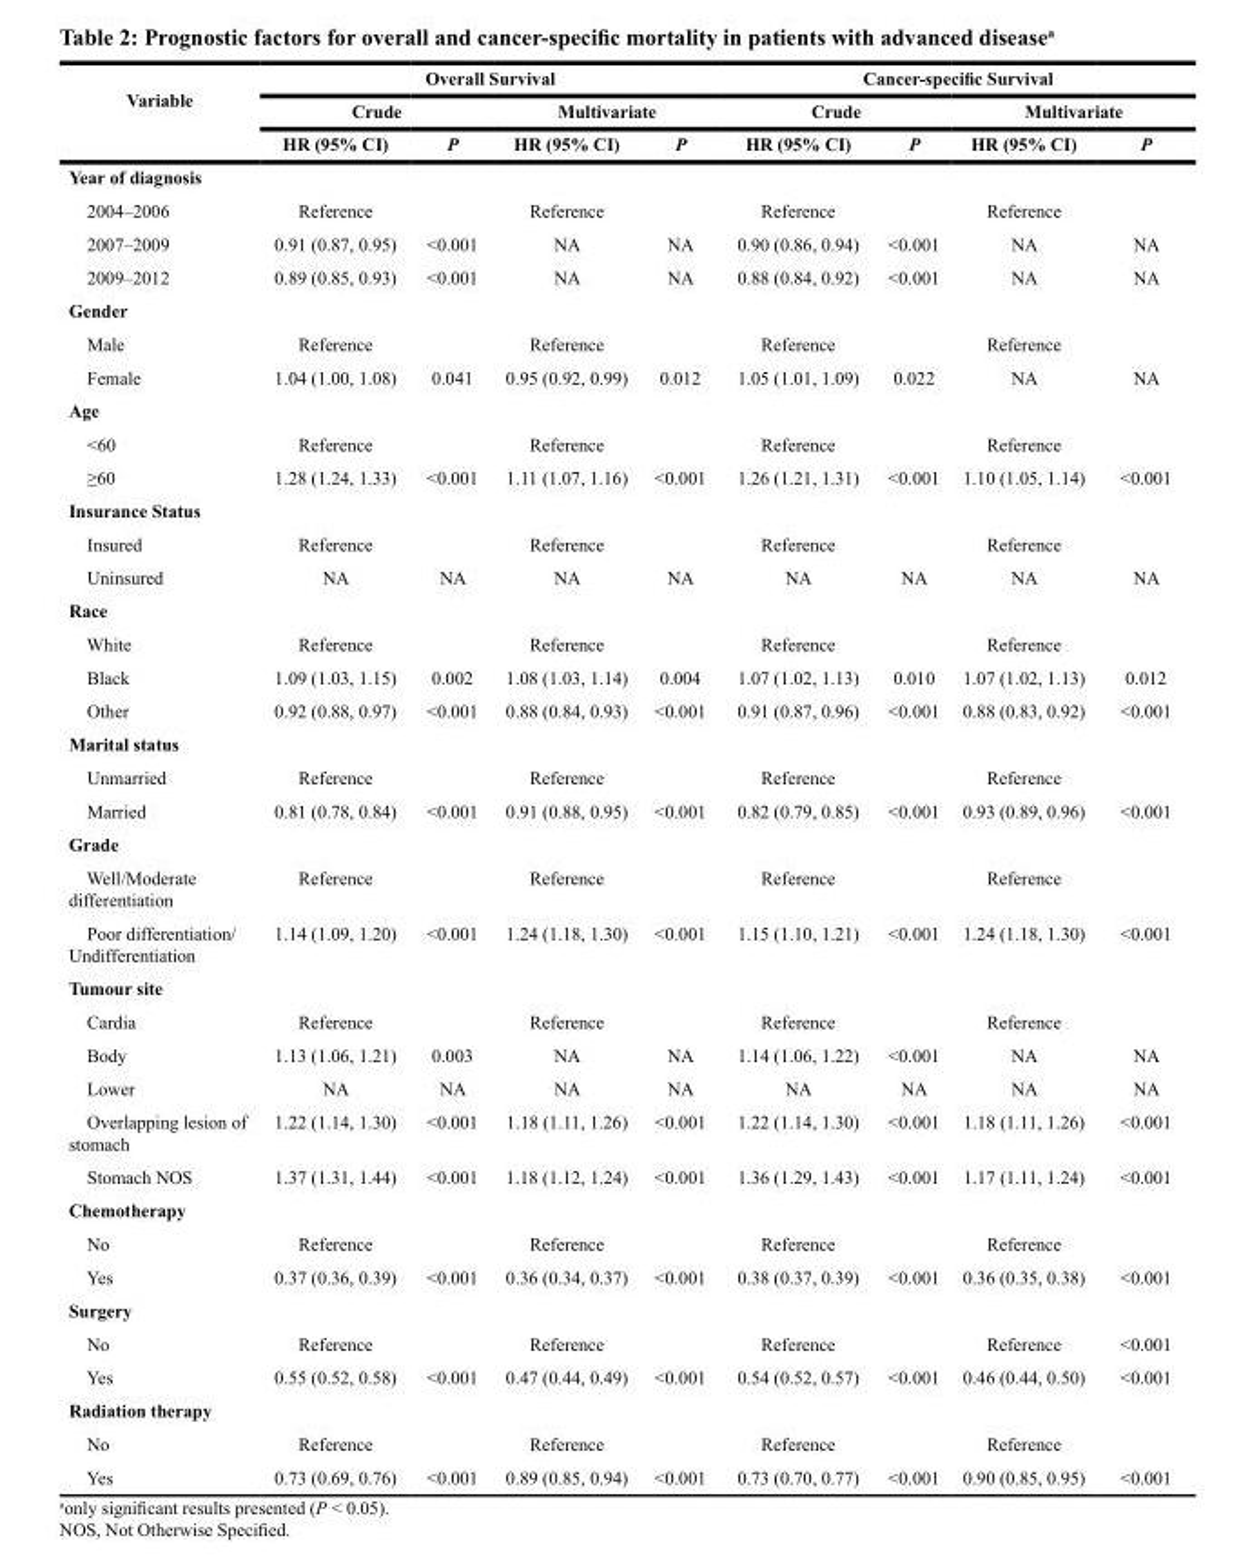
<table><thead><tr><td rowspan="3">Variable</td><td colspan="4">Overall Survival</td><td colspan="4">Cancer-specific Survival</td></tr><tr><td colspan="2">Crude</td><td colspan="2">Multivariate</td><td colspan="2">Crude</td><td colspan="2">Multivariate</td></tr><tr><td>HR (95% CI)</td><td>P</td><td>HR (95% CI)</td><td>P</td><td>HR (95% CI)</td><td>P</td><td>HR (95% CI)</td><td>P</td></tr></thead><tbody><tr><td colspan="9">Year of diagnosis</td></tr><tr><td>2004–2006</td><td>Reference</td><td></td><td>Reference</td><td></td><td>Reference</td><td></td><td>Reference</td><td></td></tr><tr><td>2007–2009</td><td>0.91 (0.87, 0.95)</td><td>&lt;0.001</td><td>NA</td><td>NA</td><td>0.90 (0.86, 0.94)</td><td>&lt;0.001</td><td>NA</td><td>NA</td></tr><tr><td>2009–2012</td><td>0.89 (0.85, 0.93)</td><td>&lt;0.001</td><td>NA</td><td>NA</td><td>0.88 (0.84, 0.92)</td><td>&lt;0.001</td><td>NA</td><td>NA</td></tr><tr><td colspan="9">Gender</td></tr><tr><td>Male</td><td>Reference</td><td></td><td>Reference</td><td></td><td>Reference</td><td></td><td>Reference</td><td></td></tr><tr><td>Female</td><td>1.04 (1.00, 1.08)</td><td>0.041</td><td>0.95 (0.92, 0.99)</td><td>0.012</td><td>1.05 (1.01, 1.09)</td><td>0.022</td><td>NA</td><td>NA</td></tr><tr><td colspan="9">Age</td></tr><tr><td>&lt;60</td><td>Reference</td><td></td><td>Reference</td><td></td><td>Reference</td><td></td><td>Reference</td><td></td></tr><tr><td>≥60</td><td>1.28 (1.24, 1.33)</td><td>&lt;0.001</td><td>1.11 (1.07, 1.16)</td><td>&lt;0.001</td><td>1.26 (1.21, 1.31)</td><td>&lt;0.001</td><td>1.10 (1.05, 1.14)</td><td>&lt;0.001</td></tr><tr><td colspan="9">Insurance Status</td></tr><tr><td>Insured</td><td>Reference</td><td></td><td>Reference</td><td></td><td>Reference</td><td></td><td>Reference</td><td></td></tr><tr><td>Uninsured</td><td>NA</td><td>NA</td><td>NA</td><td>NA</td><td>NA</td><td>NA</td><td>NA</td><td>NA</td></tr><tr><td colspan="9">Race</td></tr><tr><td>White</td><td>Reference</td><td></td><td>Reference</td><td></td><td>Reference</td><td></td><td>Reference</td><td></td></tr><tr><td>Black</td><td>1.09 (1.03, 1.15)</td><td>0.002</td><td>1.08 (1.03, 1.14)</td><td>0.004</td><td>1.07 (1.02, 1.13)</td><td>0.010</td><td>1.07 (1.02, 1.13)</td><td>0.012</td></tr><tr><td>Other</td><td>0.92 (0.88, 0.97)</td><td>&lt;0.001</td><td>0.88 (0.84, 0.93)</td><td>&lt;0.001</td><td>0.91 (0.87, 0.96)</td><td>&lt;0.001</td><td>0.88 (0.83, 0.92)</td><td>&lt;0.001</td></tr><tr><td colspan="9">Marital status</td></tr><tr><td>Unmarried</td><td>Reference</td><td></td><td>Reference</td><td></td><td>Reference</td><td></td><td>Reference</td><td></td></tr><tr><td>Married</td><td>0.81 (0.78, 0.84)</td><td>&lt;0.001</td><td>0.91 (0.88, 0.95)</td><td>&lt;0.001</td><td>0.82 (0.79, 0.85)</td><td>&lt;0.001</td><td>0.93 (0.89, 0.96)</td><td>&lt;0.001</td></tr><tr><td colspan="9">Grade</td></tr><tr><td>Well/Moderate differentiation</td><td>Reference</td><td></td><td>Reference</td><td></td><td>Reference</td><td></td><td>Reference</td><td></td></tr><tr><td>Poor differentiation/ Undifferentiation</td><td>1.14 (1.09, 1.20)</td><td>&lt;0.001</td><td>1.24 (1.18, 1.30)</td><td>&lt;0.001</td><td>1.15 (1.10, 1.21)</td><td>&lt;0.001</td><td>1.24 (1.18, 1.30)</td><td>&lt;0.001</td></tr><tr><td colspan="9">Tumour site</td></tr><tr><td>Cardia</td><td>Reference</td><td></td><td>Reference</td><td></td><td>Reference</td><td></td><td>Reference</td><td></td></tr><tr><td>Body</td><td>1.13 (1.06, 1.21)</td><td>0.003</td><td>NA</td><td>NA</td><td>1.14 (1.06, 1.22)</td><td>&lt;0.001</td><td>NA</td><td>NA</td></tr><tr><td>Lower</td><td>NA</td><td>NA</td><td>NA</td><td>NA</td><td>NA</td><td>NA</td><td>NA</td><td>NA</td></tr><tr><td>Overlapping lesion of stomach</td><td>1.22 (1.14, 1.30)</td><td>&lt;0.001</td><td>1.18 (1.11, 1.26)</td><td>&lt;0.001</td><td>1.22 (1.14, 1.30)</td><td>&lt;0.001</td><td>1.18 (1.11, 1.26)</td><td>&lt;0.001</td></tr><tr><td>Stomach NOS</td><td>1.37 (1.31, 1.44)</td><td>&lt;0.001</td><td>1.18 (1.12, 1.24)</td><td>&lt;0.001</td><td>1.36 (1.29, 1.43)</td><td>&lt;0.001</td><td>1.17 (1.11, 1.24)</td><td>&lt;0.001</td></tr><tr><td colspan="9">Chemotherapy</td></tr><tr><td>No</td><td>Reference</td><td></td><td>Reference</td><td></td><td>Reference</td><td></td><td>Reference</td><td></td></tr><tr><td>Yes</td><td>0.37 (0.36, 0.39)</td><td>&lt;0.001</td><td>0.36 (0.34, 0.37)</td><td>&lt;0.001</td><td>0.38 (0.37, 0.39)</td><td>&lt;0.001</td><td>0.36 (0.35, 0.38)</td><td>&lt;0.001</td></tr><tr><td colspan="9">Surgery</td></tr><tr><td>No</td><td>Reference</td><td></td><td>Reference</td><td></td><td>Reference</td><td></td><td>Reference</td><td>&lt;0.001</td></tr><tr><td>Yes</td><td>0.55 (0.52, 0.58)</td><td>&lt;0.001</td><td>0.47 (0.44, 0.49)</td><td>&lt;0.001</td><td>0.54 (0.52, 0.57)</td><td>&lt;0.001</td><td>0.46 (0.44, 0.50)</td><td>&lt;0.001</td></tr><tr><td colspan="9">Radiation therapy</td></tr><tr><td>No</td><td>Reference</td><td></td><td>Reference</td><td></td><td>Reference</td><td></td><td>Reference</td><td></td></tr><tr><td>Yes</td><td>0.73 (0.69, 0.76)</td><td>&lt;0.001</td><td>0.89 (0.85, 0.94)</td><td>&lt;0.001</td><td>0.73 (0.70, 0.77)</td><td>&lt;0.001</td><td>0.90 (0.85, 0.95)</td><td>&lt;0.001</td></tr></tbody></table>